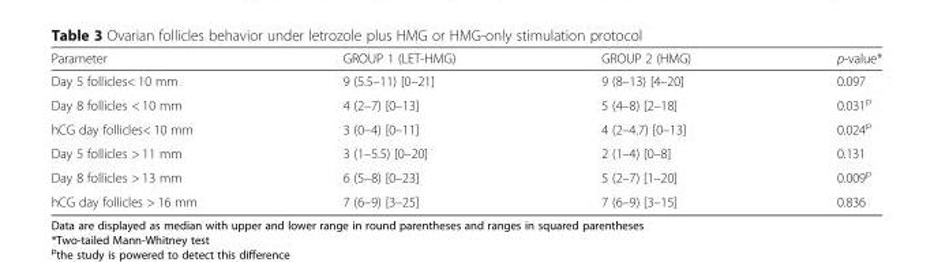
<table><thead><tr><td>Parameter</td><td>GROUP 1 (LET-HMG)</td><td>GROUP 2 (HMG)</td><td>p-value*</td></tr></thead><tbody><tr><td>Day 5 follicles&lt; 10 mm</td><td>9 (5.5–11) [0–21]</td><td>9 (8–13) [4–20]</td><td>0.097</td></tr><tr><td>Day 8 follicles &lt; 10 mm</td><td>4 (2–7) [0–13]</td><td>5 (4–8) [2–18]</td><td>0.031<sup>p</sup></td></tr><tr><td>hCG day follicles&lt; 10 mm</td><td>3 (0–4) [0–11]</td><td>4 (2–4.7) [0–13]</td><td>0.024<sup>p</sup></td></tr><tr><td>Day 5 follicles &gt; 11 mm</td><td>3 (1–5.5) [0–20]</td><td>2 (1–4) [0–8]</td><td>0.131</td></tr><tr><td>Day 8 follicles &gt; 13 mm</td><td>6 (5–8) [0–23]</td><td>5 (2–7) [1–20]</td><td>0.009<sup>p</sup></td></tr><tr><td>hCG day follicles &gt; 16 mm</td><td>7 (6–9) [3–25]</td><td>7 (6–9) [3–15]</td><td>0.836</td></tr></tbody></table>